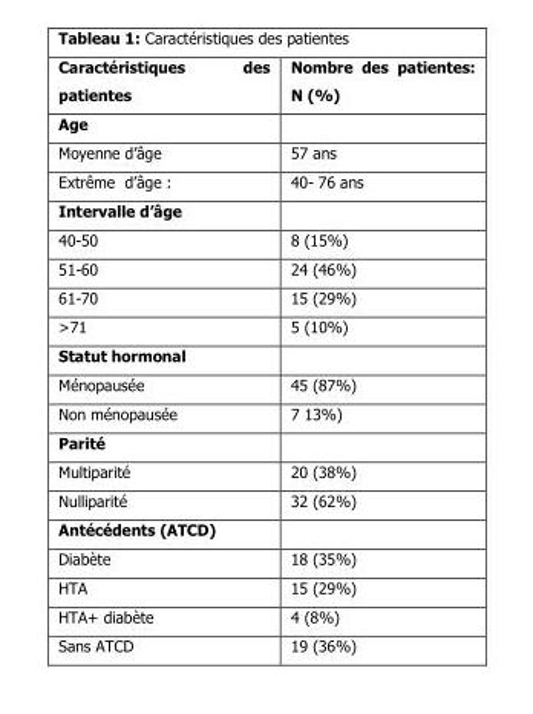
<table><thead><tr><td>Caractéristiques des patientes</td><td>Nombre des patientes: N (%)</td></tr></thead><tbody><tr><td colspan="2">Age</td></tr><tr><td>Moyenne d’âge</td><td>57 ans</td></tr><tr><td>Extrême d’âge :</td><td>40- 76 ans</td></tr><tr><td colspan="2">Intervalle d’âge</td></tr><tr><td>40-50</td><td>8 (15%)</td></tr><tr><td>51-60</td><td>24 (46%)</td></tr><tr><td>61-70</td><td>15 (29%)</td></tr><tr><td>&gt;71</td><td>5 (10%)</td></tr><tr><td colspan="2">Statut hormonal</td></tr><tr><td>Ménopausée</td><td>45 (87%)</td></tr><tr><td>Non ménopausée</td><td>7 13%)</td></tr><tr><td colspan="2">Parité</td></tr><tr><td>Multiparité</td><td>20 (38%)</td></tr><tr><td>Nulliparité</td><td>32 (62%)</td></tr><tr><td colspan="2">Antécédents (ATCD)</td></tr><tr><td>Diabète</td><td>18 (35%)</td></tr><tr><td>HTA</td><td>15 (29%)</td></tr><tr><td>HTA+ diabète</td><td>4 (8%)</td></tr><tr><td>Sans ATCD</td><td>19 (36%)</td></tr></tbody></table>